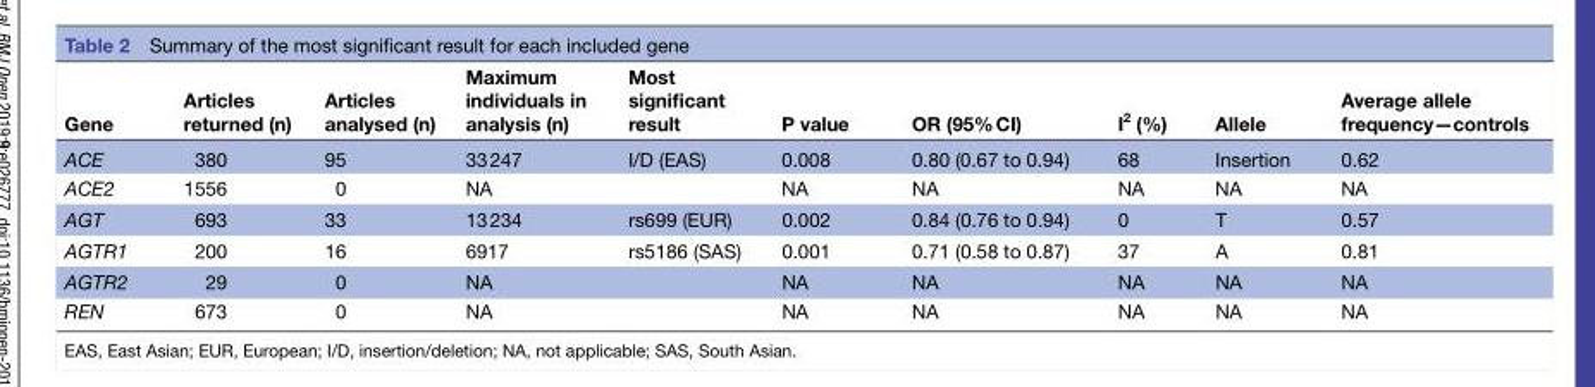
<table><thead><tr><td>Gene</td><td>Articles returned (n)</td><td>Articles analysed (n)</td><td>Maximum individuals in analysis (n)</td><td>Most significant result</td><td>P value</td><td>OR (95% CI)</td><td>I<sup>2</sup> (%)</td><td>Allele</td><td>Average allele frequency—controls</td></tr></thead><tbody><tr><td>ACE</td><td>380</td><td>95</td><td>33 247</td><td>I/D (EAS)</td><td>0.008</td><td>0.80 (0.67 to 0.94)</td><td>68</td><td>Insertion</td><td>0.62</td></tr><tr><td>ACE2</td><td>1556</td><td>0</td><td>NA</td><td></td><td>NA</td><td>NA</td><td>NA</td><td>NA</td><td>NA</td></tr><tr><td>AGT</td><td>693</td><td>33</td><td>13 234</td><td>rs699 (EUR)</td><td>0.002</td><td>0.84 (0.76 to 0.94)</td><td>0</td><td>T</td><td>0.57</td></tr><tr><td>AGTR1</td><td>200</td><td>16</td><td>6917</td><td>rs5186 (SAS)</td><td>0.001</td><td>0.71 (0.58 to 0.87)</td><td>37</td><td>A</td><td>0.81</td></tr><tr><td>AGTR2</td><td>29</td><td>0</td><td>NA</td><td></td><td>NA</td><td>NA</td><td>NA</td><td>NA</td><td>NA</td></tr><tr><td>REN</td><td>673</td><td>0</td><td>NA</td><td></td><td>NA</td><td>NA</td><td>NA</td><td>NA</td><td>NA</td></tr></tbody></table>